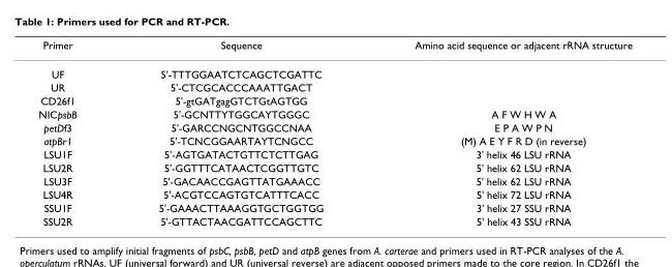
<table><thead><tr><td>Primer</td><td>Sequence</td><td>Amino acid sequence or adjacent rRNA structure</td></tr></thead><tbody><tr><td>UF</td><td>5&#x27;-TTTGGAATCTCAGCTCGATTC</td><td></td></tr><tr><td>UR</td><td>5&#x27;-CTCGCACCCAAATTGACT</td><td></td></tr><tr><td>CD26f1</td><td>5&#x27;-gtGATgagGTCTGtAGTGG</td><td></td></tr><tr><td>NICpsbB</td><td>5&#x27;-GCNTTYTGGCAYTGGGC</td><td>A F W H W A</td></tr><tr><td>petDf3</td><td>5&#x27;-GARCCNGCNTGGCCNAA</td><td>E P A W P N</td></tr><tr><td>atpBr1</td><td>5&#x27;-TCNCGGAARTAYTCNGCC</td><td>(M) A E Y F R D (in reverse)</td></tr><tr><td>LSU1F</td><td>5&#x27;-AGTGATACTGTTCTCTTGAG</td><td>3&#x27; helix 46 LSU rRNA</td></tr><tr><td>LSU2R</td><td>5&#x27;-GGTTTCATAACTCGGTTGTC</td><td>5&#x27; helix 62 LSU rRNA</td></tr><tr><td>LSU3F</td><td>5&#x27;-GACAACCGAGTTATGAAACC</td><td>5&#x27; helix 62 LSU rRNA</td></tr><tr><td>LSU4R</td><td>5&#x27;-ACGTCCAGTGTCATTTCACC</td><td>5&#x27; helix 72 LSU rRNA</td></tr><tr><td>SSU1F</td><td>5&#x27;-GAAACTTAAAGGTGCTGGTGG</td><td>3&#x27; helix 27 SSU rRNA</td></tr><tr><td>SSU2R</td><td>5&#x27;-GTTACTAACGATTCCAGCTTC</td><td>5&#x27; helix 43 SSU rRNA</td></tr></tbody></table>